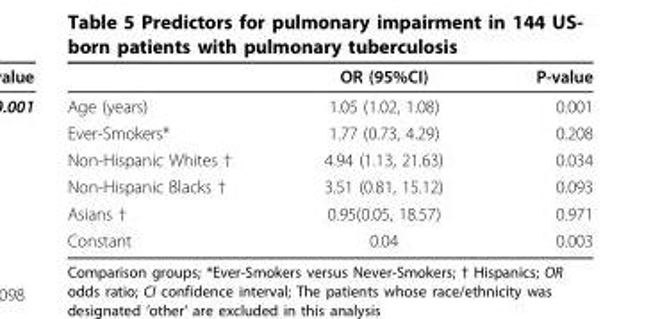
<table><thead><tr><td></td><td>OR (95%CI)</td><td>P-value</td></tr></thead><tbody><tr><td>Age (years)</td><td>1.05 (1.02, 1.08)</td><td>0.001</td></tr><tr><td>Ever-Smokers*</td><td>1.77 (0.73, 4.29)</td><td>0.208</td></tr><tr><td>Non-Hispanic Whites †</td><td>4.94 (1.13, 21.63)</td><td>0.034</td></tr><tr><td>Non-Hispanic Blacks †</td><td>3.51 (0.81, 15.12)</td><td>0.093</td></tr><tr><td>Asians †</td><td>0.95(0.05, 18.57)</td><td>0.971</td></tr><tr><td>Constant</td><td>0.04</td><td>0.003</td></tr></tbody></table>